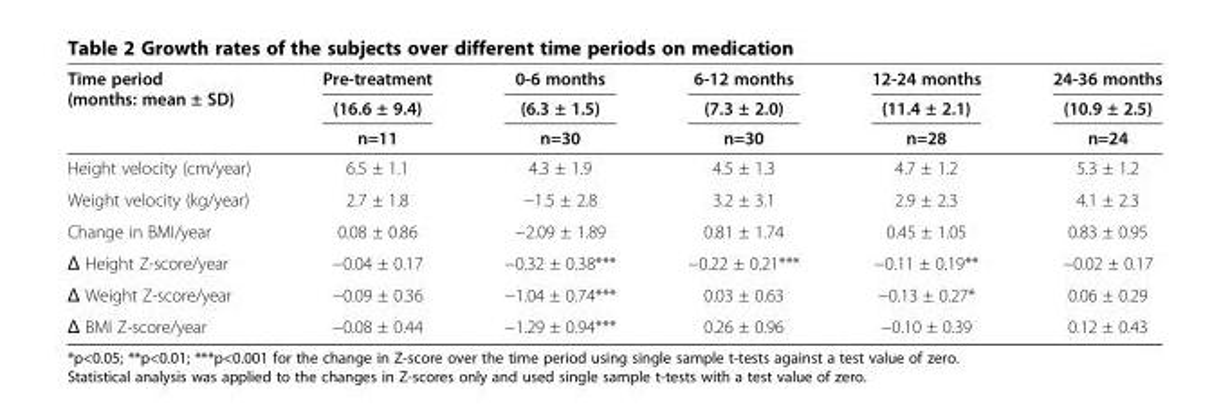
<table><thead><tr><td rowspan="3">Time period (months: mean ± SD)</td><td rowspan="3">Pre-treatment (16.6 ± 9.4) n=11</td><td rowspan="3">0-6 months (6.3 ± 1.5) n=30</td><td rowspan="3">6-12 months (7.3 ± 2.0) n=30</td><td rowspan="3">12-24 months (11.4 ± 2.1) n=28</td><td rowspan="3">24-36 months (10.9 ± 2.5) n=24</td></tr><tr></tr><tr></tr></thead><tbody><tr><td>Height velocity (cm/year)</td><td>6.5 ± 1.1</td><td>4.3 ± 1.9</td><td>4.5 ± 1.3</td><td>4.7 ± 1.2</td><td>5.3 ± 1.2</td></tr><tr><td>Weight velocity (kg/year)</td><td>2.7 ± 1.8</td><td>−1.5 ± 2.8</td><td>3.2 ± 3.1</td><td>2.9 ± 2.3</td><td>4.1 ± 2.3</td></tr><tr><td>Change in BMI/year</td><td>0.08 ± 0.86</td><td>−2.09 ± 1.89</td><td>0.81 ± 1.74</td><td>0.45 ± 1.05</td><td>0.83 ± 0.95</td></tr><tr><td>Δ Height Z-score/year</td><td>−0.04 ± 0.17</td><td>−0.32 ± 0.38***</td><td>−0.22 ± 0.21***</td><td>−0.11 ± 0.19**</td><td>−0.02 ± 0.17</td></tr><tr><td>Δ Weight Z-score/year</td><td>−0.09 ± 0.36</td><td>−1.04 ± 0.74***</td><td>0.03 ± 0.63</td><td>−0.13 ± 0.27*</td><td>0.06 ± 0.29</td></tr><tr><td>Δ BMI Z-score/year</td><td>−0.08 ± 0.44</td><td>−1.29 ± 0.94***</td><td>0.26 ± 0.96</td><td>−0.10 ± 0.39</td><td>0.12 ± 0.43</td></tr></tbody></table>